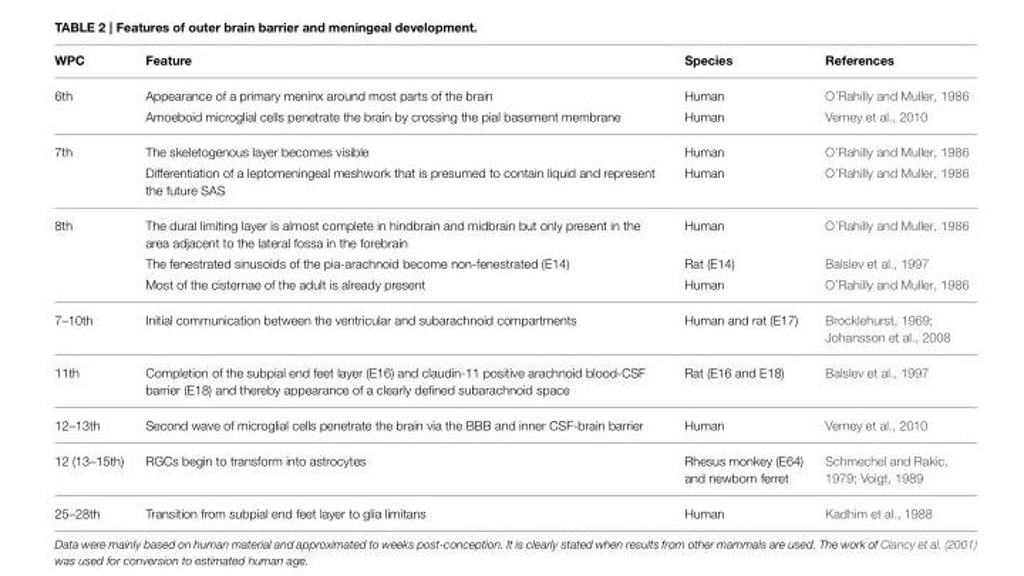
<table><thead><tr><td>WPC</td><td>Feature</td><td>Species</td><td>References</td></tr></thead><tbody><tr><td rowspan="2">6th</td><td>Appearance of a primary meninx around most parts of the brain</td><td>Human</td><td>O’Rahilly and Muller, 1986</td></tr><tr><td>Amoeboid microglial cells penetrate the brain by crossing the pial basement membrane</td><td>Human</td><td>Verney et al., 2010</td></tr><tr><td rowspan="2">7th</td><td>The skeletogenous layer becomes visible</td><td>Human</td><td>O’Rahilly and Muller, 1986</td></tr><tr><td>Differentiation of a leptomeningeal meshwork that is presumed to contain liquid and represent the future SAS</td><td>Human</td><td>O’Rahilly and Muller, 1986</td></tr><tr><td rowspan="3">8th</td><td>The dural limiting layer is almost complete in hindbrain and midbrain but only present in the area adjacent to the lateral fossa in the forebrain</td><td>Human</td><td>O’Rahilly and Muller, 1986</td></tr><tr><td>The fenestrated sinusoids of the pia-arachnoid become non-fenestrated (E14)</td><td>Rat (E14)</td><td>Balslev et al., 1997</td></tr><tr><td>Most of the cisternae of the adult is already present</td><td>Human</td><td>O’Rahilly and Muller, 1986</td></tr><tr><td>7–10th</td><td>Initial communication between the ventricular and subarachnoid compartments</td><td>Human and rat (E17)</td><td>Brocklehurst, 1969; Johansson et al., 2008</td></tr><tr><td>11th</td><td>Completion of the subpial end feet layer (E16) and claudin-11 positive arachnoid blood-CSF barrier (E18) and thereby appearance of a clearly defined subarachnoid space</td><td>Rat (E16 and E18)</td><td>Balslev et al., 1997</td></tr><tr><td>12–13th</td><td>Second wave of microglial cells penetrate the brain via the BBB and inner CSF-brain barrier</td><td>Human</td><td>Verney et al., 2010</td></tr><tr><td>12 (13–15th)</td><td>RGCs begin to transform into astrocytes</td><td>Rhesus monkey (E64) and newborn ferret</td><td>Schmechel and Rakic, 1979; Voigt, 1989</td></tr><tr><td>25–28th</td><td>Transition from subpial end feet layer to glia limitans</td><td>Human</td><td>Kadhim et al., 1988</td></tr></tbody></table>